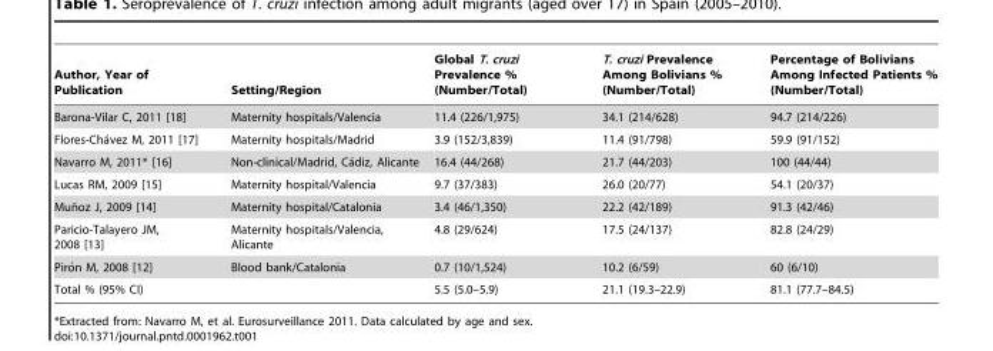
<table><thead><tr><td>Author, Year of Publication</td><td>Setting/Region</td><td>Global T. cruzi Prevalence % (Number/Total)</td><td>T. cruzi Prevalence Among Bolivians % (Number/Total)</td><td>Percentage of Bolivians Among Infected Patients % (Number/Total)</td></tr></thead><tbody><tr><td>Barona-Vilar C, 2011 [18]</td><td>Maternity hospitals/Valencia</td><td>11.4 (226/1,975)</td><td>34.1 (214/628)</td><td>94.7 (214/226)</td></tr><tr><td>Flores-Cha´vez M, 2011 [17]</td><td>Maternity hospitals/Madrid</td><td>3.9 (152/3,839)</td><td>11.4 (91/798)</td><td>59.9 (91/152)</td></tr><tr><td>Navarro M, 2011* [16]</td><td>Non-clinical/Madrid, Ca´diz, Alicante</td><td>16.4 (44/268)</td><td>21.7 (44/203)</td><td>100 (44/44)</td></tr><tr><td>Lucas RM, 2009 [15]</td><td>Maternity hospital/Valencia</td><td>9.7 (37/383)</td><td>26.0 (20/77)</td><td>54.1 (20/37)</td></tr><tr><td>Mun˜oz J, 2009 [14]</td><td>Maternity hospital/Catalonia</td><td>3.4 (46/1,350)</td><td>22.2 (42/189)</td><td>91.3 (42/46)</td></tr><tr><td>Paricio-Talayero JM, 2008 [13]</td><td>Maternity hospitals/Valencia, Alicante</td><td>4.8 (29/624)</td><td>17.5 (24/137)</td><td>82.8 (24/29)</td></tr><tr><td>Piro´n M, 2008 [12]</td><td>Blood bank/Catalonia</td><td>0.7 (10/1,524)</td><td>10.2 (6/59)</td><td>60 (6/10)</td></tr><tr><td>Total % (95% CI)</td><td></td><td>5.5 (5.0–5.9)</td><td>21.1 (19.3–22.9)</td><td>81.1 (77.7–84.5)</td></tr></tbody></table>